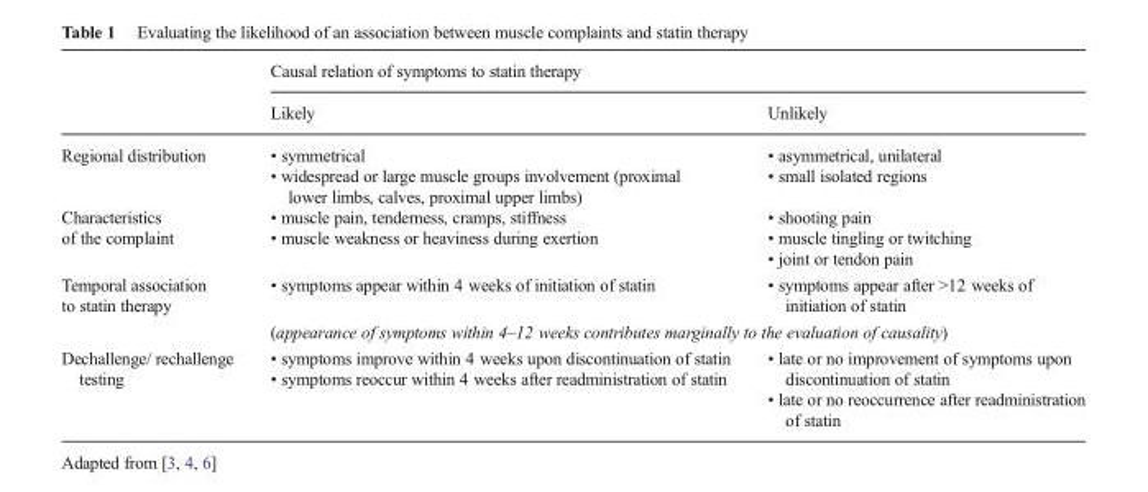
<table><thead><tr><td rowspan="2"></td><td colspan="2">Causal relation of symptoms to statin therapy</td></tr><tr><td>Likely</td><td>Unlikely</td></tr></thead><tbody><tr><td>Regional distribution</td><td>• symmetrical • widespread or large muscle groups involvement (proximal lower limbs, calves, proximal upper limbs)</td><td>• asymmetrical, unilateral • small isolated regions</td></tr><tr><td>Characteristics of the complaint</td><td>• muscle pain, tenderness, cramps, stiffness • muscle weakness or heaviness during exertion</td><td>• shooting pain • muscle tingling or twitching • joint or tendon pain</td></tr><tr><td rowspan="2">Temporal association to statin therapy</td><td>• symptoms appear within 4 weeks of initiation of statin</td><td>• symptoms appear after &gt;12 weeks of initiation of statin</td></tr><tr><td colspan="2">(appearance of symptoms within 4–12 weeks contributes marginally to the evaluation of causality)</td></tr><tr><td>Dechallenge/ rechallenge testing</td><td>• symptoms improve within 4 weeks upon discontinuation of statin • symptoms reoccur within 4 weeks after readministration of statin</td><td>• late or no improvement of symptoms upon discontinuation of statin • late or no reoccurrence after readministration of statin</td></tr></tbody></table>